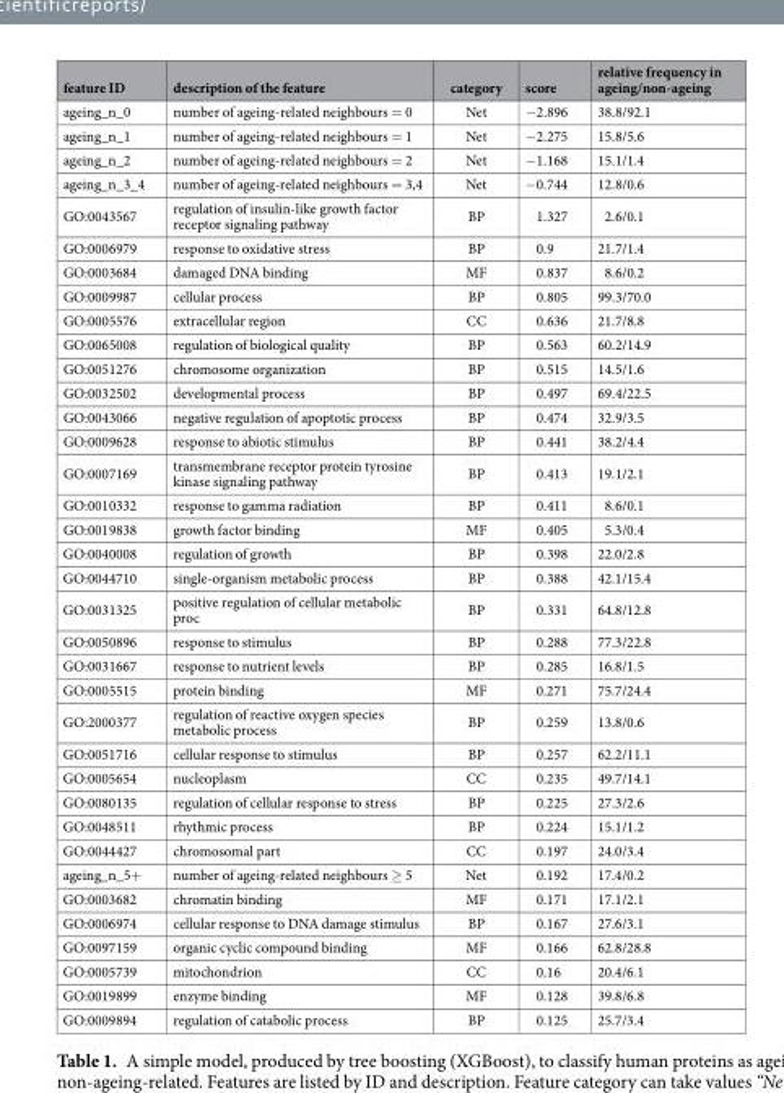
<table><thead><tr><td>feature ID</td><td>description of the feature</td><td>category</td><td>score</td><td>relative frequency in ageing/non-ageing</td></tr></thead><tbody><tr><td>ageing_n_0</td><td>number of ageing-related neighbours = 0</td><td>Net</td><td>−2.896</td><td>38.8/92.1</td></tr><tr><td>ageing_n_1</td><td>number of ageing-related neighbours = 1</td><td>Net</td><td>−2.275</td><td>15.8/5.6</td></tr><tr><td>ageing_n_2</td><td>number of ageing-related neighbours = 2</td><td>Net</td><td>−1.168</td><td>15.1/1.4</td></tr><tr><td>ageing_n_3_4</td><td>number of ageing-related neighbours = 3,4</td><td>Net</td><td>−0.744</td><td>12.8/0.6</td></tr><tr><td>GO:0043567</td><td>regulation of insulin-like growth factor receptor signaling pathway</td><td>BP</td><td>1.327</td><td>2.6/0.1</td></tr><tr><td>GO:0006979</td><td>response to oxidative stress</td><td>BP</td><td>0.9</td><td>21.7/1.4</td></tr><tr><td>GO:0003684</td><td>damaged DNA binding</td><td>MF</td><td>0.837</td><td>8.6/0.2</td></tr><tr><td>GO:0009987</td><td>cellular process</td><td>BP</td><td>0.805</td><td>99.3/70.0</td></tr><tr><td>GO:0005576</td><td>extracellular region</td><td>CC</td><td>0.636</td><td>21.7/8.8</td></tr><tr><td>GO:0065008</td><td>regulation of biological quality</td><td>BP</td><td>0.563</td><td>60.2/14.9</td></tr><tr><td>GO:0051276</td><td>chromosome organization</td><td>BP</td><td>0.515</td><td>14.5/1.6</td></tr><tr><td>GO:0032502</td><td>developmental process</td><td>BP</td><td>0.497</td><td>69.4/22.5</td></tr><tr><td>GO:0043066</td><td>negative regulation of apoptotic process</td><td>BP</td><td>0.474</td><td>32.9/3.5</td></tr><tr><td>GO:0009628</td><td>response to abiotic stimulus</td><td>BP</td><td>0.441</td><td>38.2/4.4</td></tr><tr><td>GO:0007169</td><td>transmembrane receptor protein tyrosine kinase signaling pathway</td><td>BP</td><td>0.413</td><td>19.1/2.1</td></tr><tr><td>GO:0010332</td><td>response to gamma radiation</td><td>BP</td><td>0.411</td><td>8.6/0.1</td></tr><tr><td>GO:0019838</td><td>growth factor binding</td><td>MF</td><td>0.405</td><td>5.3/0.4</td></tr><tr><td>GO:0040008</td><td>regulation of growth</td><td>BP</td><td>0.398</td><td>22.0/2.8</td></tr><tr><td>GO:0044710</td><td>single-organism metabolic process</td><td>BP</td><td>0.388</td><td>42.1/15.4</td></tr><tr><td>GO:0031325</td><td>positive regulation of cellular metabolic proc</td><td>BP</td><td>0.331</td><td>64.8/12.8</td></tr><tr><td>GO:0050896</td><td>response to stimulus</td><td>BP</td><td>0.288</td><td>77.3/22.8</td></tr><tr><td>GO:0031667</td><td>response to nutrient levels</td><td>BP</td><td>0.285</td><td>16.8/1.5</td></tr><tr><td>GO:0005515</td><td>protein binding</td><td>MF</td><td>0.271</td><td>75.7/24.4</td></tr><tr><td>GO:2000377</td><td>regulation of reactive oxygen species metabolic process</td><td>BP</td><td>0.259</td><td>13.8/0.6</td></tr><tr><td>GO:0051716</td><td>cellular response to stimulus</td><td>BP</td><td>0.257</td><td>62.2/11.1</td></tr><tr><td>GO:0005654</td><td>nucleoplasm</td><td>CC</td><td>0.235</td><td>49.7/14.1</td></tr><tr><td>GO:0080135</td><td>regulation of cellular response to stress</td><td>BP</td><td>0.225</td><td>27.3/2.6</td></tr><tr><td>GO:0048511</td><td>rhythmic process</td><td>BP</td><td>0.224</td><td>15.1/1.2</td></tr><tr><td>GO:0044427</td><td>chromosomal part</td><td>CC</td><td>0.197</td><td>24.0/3.4</td></tr><tr><td>ageing_n_5+</td><td>number of ageing-related neighbours ≥ 5</td><td>Net</td><td>0.192</td><td>17.4/0.2</td></tr><tr><td>GO:0003682</td><td>chromatin binding</td><td>MF</td><td>0.171</td><td>17.1/2.1</td></tr><tr><td>GO:0006974</td><td>cellular response to DNA damage stimulus</td><td>BP</td><td>0.167</td><td>27.6/3.1</td></tr><tr><td>GO:0097159</td><td>organic cyclic compound binding</td><td>MF</td><td>0.166</td><td>62.8/28.8</td></tr><tr><td>GO:0005739</td><td>mitochondrion</td><td>CC</td><td>0.16</td><td>20.4/6.1</td></tr><tr><td>GO:0019899</td><td>enzyme binding</td><td>MF</td><td>0.128</td><td>39.8/6.8</td></tr><tr><td>GO:0009894</td><td>regulation of catabolic process</td><td>BP</td><td>0.125</td><td>25.7/3.4</td></tr></tbody></table>